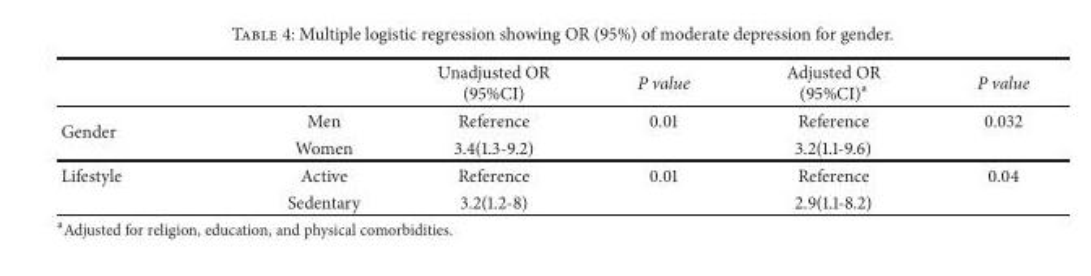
<table><thead><tr><td></td><td></td><td>Unadjusted OR (95%CI)</td><td>P value</td><td>Adjusted OR (95%CI)<sup>a</sup></td><td>P value</td></tr></thead><tbody><tr><td rowspan="2">Gender</td><td>Men</td><td>Reference</td><td>0.01</td><td>Reference</td><td>0.032</td></tr><tr><td>Women</td><td>3.4(1.3-9.2)</td><td></td><td>3.2(1.1-9.6)</td><td></td></tr><tr><td rowspan="2">Lifestyle</td><td>Active</td><td>Reference</td><td>0.01</td><td>Reference</td><td>0.04</td></tr><tr><td>Sedentary</td><td>3.2(1.2-8)</td><td></td><td>2.9(1.1-8.2)</td><td></td></tr></tbody></table>